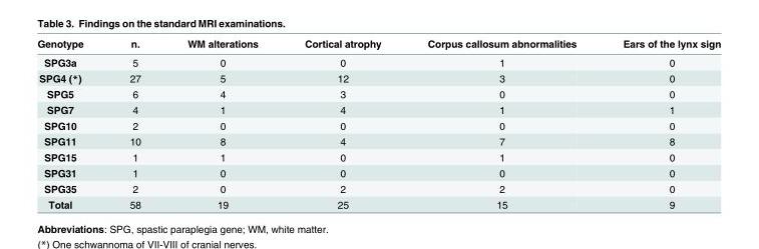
<table><thead><tr><td>Genotype</td><td>n.</td><td>WM alterations</td><td>Cortical atrophy</td><td>Corpus callosum abnormalities</td><td>Ears of the lynx sign</td></tr></thead><tbody><tr><td>SPG3a</td><td>5</td><td>0</td><td>0</td><td>1</td><td>0</td></tr><tr><td>SPG4 (*)</td><td>27</td><td>5</td><td>12</td><td>3</td><td>0</td></tr><tr><td>SPG5</td><td>6</td><td>4</td><td>3</td><td>0</td><td>0</td></tr><tr><td>SPG7</td><td>4</td><td>1</td><td>4</td><td>1</td><td>1</td></tr><tr><td>SPG10</td><td>2</td><td>0</td><td>0</td><td>0</td><td>0</td></tr><tr><td>SPG11</td><td>10</td><td>8</td><td>4</td><td>7</td><td>8</td></tr><tr><td>SPG15</td><td>1</td><td>1</td><td>0</td><td>1</td><td>0</td></tr><tr><td>SPG31</td><td>1</td><td>0</td><td>0</td><td>0</td><td>0</td></tr><tr><td>SPG35</td><td>2</td><td>0</td><td>2</td><td>2</td><td>0</td></tr><tr><td>Total</td><td>58</td><td>19</td><td>25</td><td>15</td><td>9</td></tr></tbody></table>